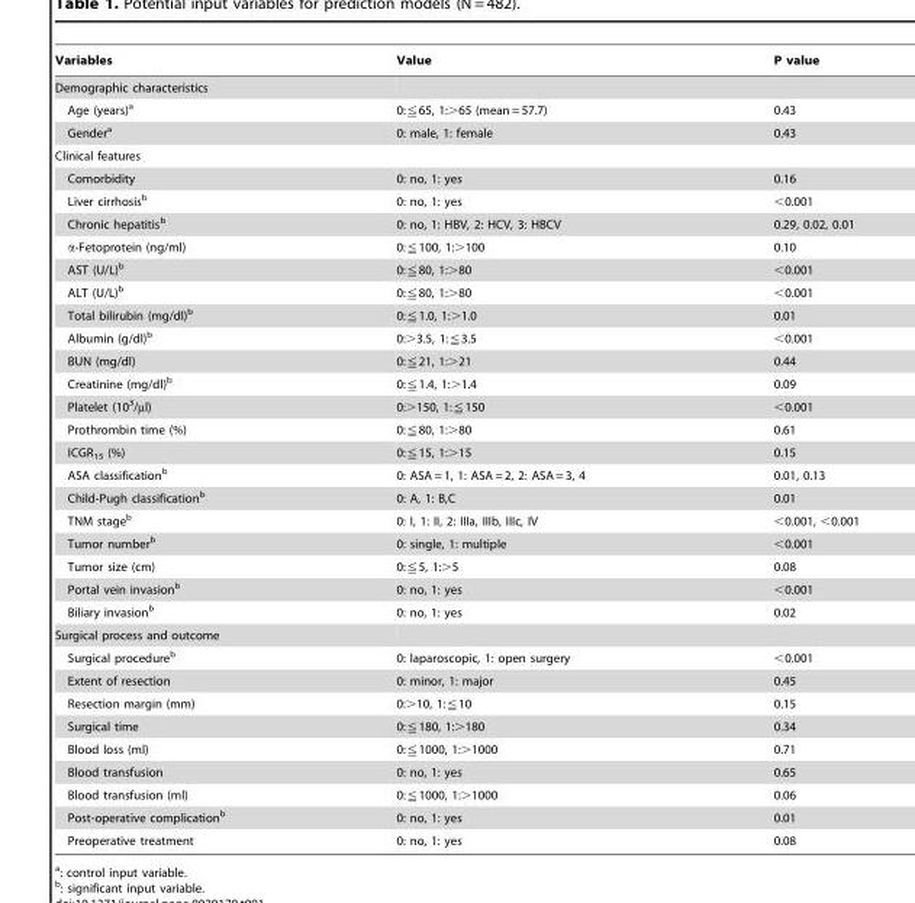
<table><thead><tr><td>Variables</td><td>Value</td><td>P value</td></tr></thead><tbody><tr><td colspan="3">Demographic characteristics</td></tr><tr><td>Age (years)<sup>a</sup></td><td>0:⩽65, 1:&gt;65 (mean = 57.7)</td><td>0.43</td></tr><tr><td>Gender<sup>a</sup></td><td>0: male, 1: female</td><td>0.43</td></tr><tr><td colspan="3">Clinical features</td></tr><tr><td>Comorbidity</td><td>0: no, 1: yes</td><td>0.16</td></tr><tr><td>Liver cirrhosis<sup>b</sup></td><td>0: no, 1: yes</td><td>&lt;0.001</td></tr><tr><td>Chronic hepatitis<sup>b</sup></td><td>0: no, 1: HBV, 2: HCV, 3: HBCV</td><td>0.29, 0.02, 0.01</td></tr><tr><td>α-Fetoprotein (ng/ml)</td><td>0:⩽100, 1:&gt;100</td><td>0.10</td></tr><tr><td>AST (U/L)<sup>b</sup></td><td>0:⩽80, 1:&gt;80</td><td>&lt;0.001</td></tr><tr><td>ALT (U/L)<sup>b</sup></td><td>0:⩽80, 1:&gt;80</td><td>&lt;0.001</td></tr><tr><td>Total bilirubin (mg/dl)<sup>b</sup></td><td>0:⩽1.0, 1:&gt;1.0</td><td>0.01</td></tr><tr><td>Albumin (g/dl)<sup>b</sup></td><td>0:&gt;3.5, 1:⩽3.5</td><td>&lt;0.001</td></tr><tr><td>BUN (mg/dl)</td><td>0:⩽21, 1:&gt;21</td><td>0.44</td></tr><tr><td>Creatinine (mg/dl)<sup>b</sup></td><td>0:⩽1.4, 1:&gt;1.4</td><td>0.09</td></tr><tr><td>Platelet (10<sup>3</sup>/µl)</td><td>0:&gt;150, 1:⩽150</td><td>&lt;0.001</td></tr><tr><td>Prothrombin time (%)</td><td>0:⩽80, 1:&gt;80</td><td>0.61</td></tr><tr><td>ICGR<sub>15</sub> (%)</td><td>0:⩽15, 1:&gt;15</td><td>0.15</td></tr><tr><td>ASA classification<sup>b</sup></td><td>0: ASA = 1, 1: ASA = 2, 2: ASA = 3, 4</td><td>0.01, 0.13</td></tr><tr><td>Child-Pugh classification<sup>b</sup></td><td>0: A, 1: B,C</td><td>0.01</td></tr><tr><td>TNM stage<sup>b</sup></td><td>0: I, 1: II, 2: IIIa, IIIb, IIIc, IV</td><td>&lt;0.001, &lt;0.001</td></tr><tr><td>Tumor number<sup>b</sup></td><td>0: single, 1: multiple</td><td>&lt;0.001</td></tr><tr><td>Tumor size (cm)</td><td>0:⩽5, 1:&gt;5</td><td>0.08</td></tr><tr><td>Portal vein invasion<sup>b</sup></td><td>0: no, 1: yes</td><td>&lt;0.001</td></tr><tr><td>Biliary invasion<sup>b</sup></td><td>0: no, 1: yes</td><td>0.02</td></tr><tr><td colspan="3">Surgical process and outcome</td></tr><tr><td>Surgical procedure<sup>b</sup></td><td>0: laparoscopic, 1: open surgery</td><td>&lt;0.001</td></tr><tr><td>Extent of resection</td><td>0: minor, 1: major</td><td>0.45</td></tr><tr><td>Resection margin (mm)</td><td>0:&gt;10, 1:⩽10</td><td>0.15</td></tr><tr><td>Surgical time</td><td>0:⩽180, 1:&gt;180</td><td>0.34</td></tr><tr><td>Blood loss (ml)</td><td>0:⩽1000, 1:&gt;1000</td><td>0.71</td></tr><tr><td>Blood transfusion</td><td>0: no, 1: yes</td><td>0.65</td></tr><tr><td>Blood transfusion (ml)</td><td>0:⩽1000, 1:&gt;1000</td><td>0.06</td></tr><tr><td>Post-operative complication<sup>b</sup></td><td>0: no, 1: yes</td><td>0.01</td></tr><tr><td>Preoperative treatment</td><td>0: no, 1: yes</td><td>0.08</td></tr></tbody></table>